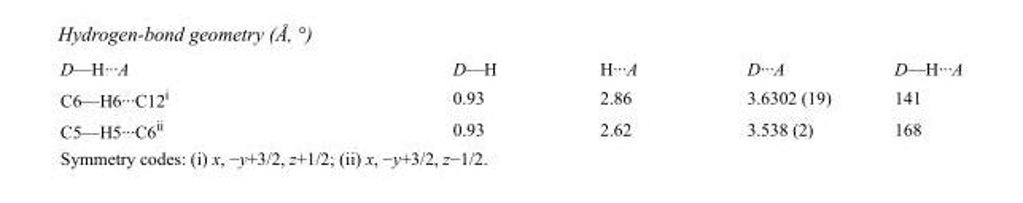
<table><tbody><tr><td>D—H···A</td><td>D—H</td><td>H···A</td><td>D···A</td><td>D—H···A</td></tr><tr><td>C6—H6···C12<sup>i</sup></td><td>0.93</td><td>2.86</td><td>3.6302 (19)</td><td>141</td></tr><tr><td>C5—H5···C6<sup>ii</sup></td><td>0.93</td><td>2.62</td><td>3.538 (2)</td><td>168</td></tr></tbody></table>